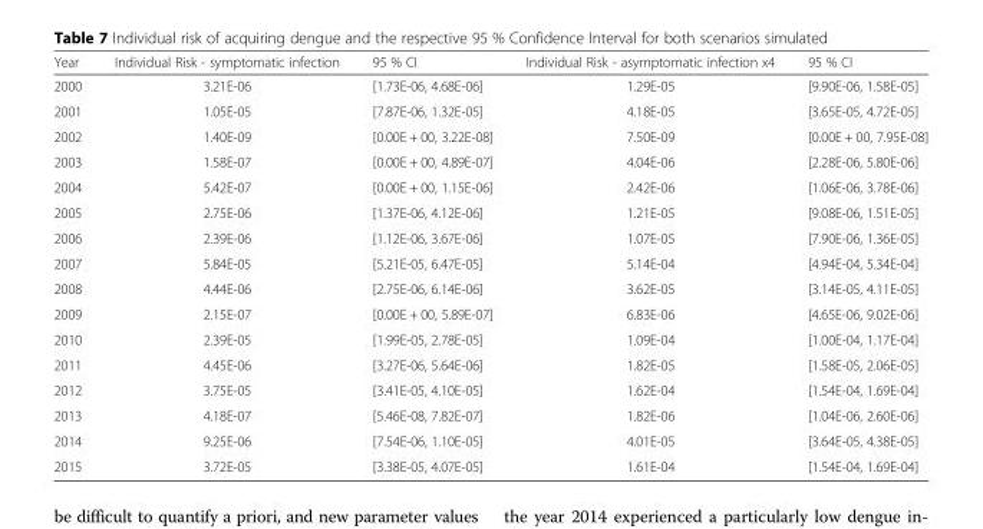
<table><thead><tr><td>Year</td><td>Individual Risk - symptomatic infection</td><td>95 % CI</td><td>Individual Risk - asymptomatic infection x4</td><td>95 % CI</td></tr></thead><tbody><tr><td>2000</td><td>3.21E-06</td><td>[1.73E-06, 4.68E-06]</td><td>1.29E-05</td><td>[9.90E-06, 1.58E-05]</td></tr><tr><td>2001</td><td>1.05E-05</td><td>[7.87E-06, 1.32E-05]</td><td>4.18E-05</td><td>[3.65E-05, 4.72E-05]</td></tr><tr><td>2002</td><td>1.40E-09</td><td>[0.00E + 00, 3.22E-08]</td><td>7.50E-09</td><td>[0.00E + 00, 7.95E-08]</td></tr><tr><td>2003</td><td>1.58E-07</td><td>[0.00E + 00, 4.89E-07]</td><td>4.04E-06</td><td>[2.28E-06, 5.80E-06]</td></tr><tr><td>2004</td><td>5.42E-07</td><td>[0.00E + 00, 1.15E-06]</td><td>2.42E-06</td><td>[1.06E-06, 3.78E-06]</td></tr><tr><td>2005</td><td>2.75E-06</td><td>[1.37E-06, 4.12E-06]</td><td>1.21E-05</td><td>[9.08E-06, 1.51E-05]</td></tr><tr><td>2006</td><td>2.39E-06</td><td>[1.12E-06, 3.67E-06]</td><td>1.07E-05</td><td>[7.90E-06, 1.36E-05]</td></tr><tr><td>2007</td><td>5.84E-05</td><td>[5.21E-05, 6.47E-05]</td><td>5.14E-04</td><td>[4.94E-04, 5.34E-04]</td></tr><tr><td>2008</td><td>4.44E-06</td><td>[2.75E-06, 6.14E-06]</td><td>3.62E-05</td><td>[3.14E-05, 4.11E-05]</td></tr><tr><td>2009</td><td>2.15E-07</td><td>[0.00E + 00, 5.89E-07]</td><td>6.83E-06</td><td>[4.65E-06, 9.02E-06]</td></tr><tr><td>2010</td><td>2.39E-05</td><td>[1.99E-05, 2.78E-05]</td><td>1.09E-04</td><td>[1.00E-04, 1.17E-04]</td></tr><tr><td>2011</td><td>4.45E-06</td><td>[3.27E-06, 5.64E-06]</td><td>1.82E-05</td><td>[1.58E-05, 2.06E-05]</td></tr><tr><td>2012</td><td>3.75E-05</td><td>[3.41E-05, 4.10E-05]</td><td>1.62E-04</td><td>[1.54E-04, 1.69E-04]</td></tr><tr><td>2013</td><td>4.18E-07</td><td>[5.46E-08, 7.82E-07]</td><td>1.82E-06</td><td>[1.04E-06, 2.60E-06]</td></tr><tr><td>2014</td><td>9.25E-06</td><td>[7.54E-06, 1.10E-05]</td><td>4.01E-05</td><td>[3.64E-05, 4.38E-05]</td></tr><tr><td>2015</td><td>3.72E-05</td><td>[3.38E-05, 4.07E-05]</td><td>1.61E-04</td><td>[1.54E-04, 1.69E-04]</td></tr></tbody></table>